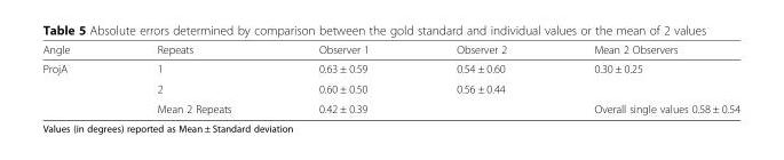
<table><thead><tr><td>Angle</td><td>Repeats</td><td>Observer 1</td><td>Observer 2</td><td>Mean 2 Observers</td></tr></thead><tbody><tr><td rowspan="3">ProjA</td><td>1</td><td>0.63 ± 0.59</td><td>0.54 ± 0.60</td><td rowspan="2">0.30 ± 0.25</td></tr><tr><td>2</td><td>0.60 ± 0.50</td><td>0.56 ± 0.44</td></tr><tr><td>Mean 2 Repeats</td><td colspan="2">0.42 ± 0.39</td><td>Overall single values 0.58 ± 0.54</td></tr></tbody></table>